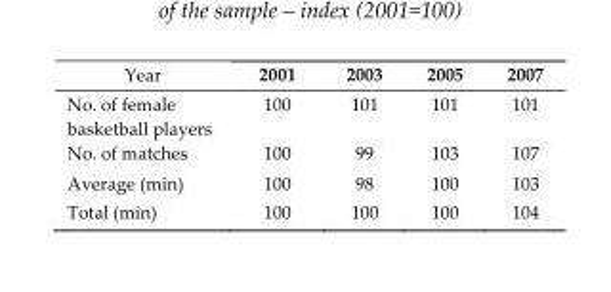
<table><thead><tr><td>Year</td><td>2001</td><td>2003</td><td>2005</td><td>2007</td></tr></thead><tbody><tr><td>No. of female basketball players</td><td>100</td><td>101</td><td>101</td><td>101</td></tr><tr><td>No. of matches</td><td>100</td><td>99</td><td>103</td><td>107</td></tr><tr><td>Average (min)</td><td>100</td><td>98</td><td>100</td><td>103</td></tr><tr><td>Total (min)</td><td>100</td><td>100</td><td>100</td><td>104</td></tr></tbody></table>